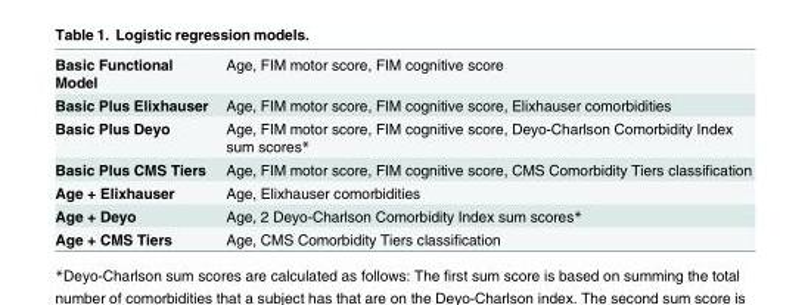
<table><tbody><tr><td>Basic Functional Model</td><td>Age, FIM motor score, FIM cognitive score</td></tr><tr><td>Basic Plus Elixhauser</td><td>Age, FIM motor score, FIM cognitive score, Elixhauser comorbidities</td></tr><tr><td>Basic Plus Deyo</td><td>Age, FIM motor score, FIM cognitive score, Deyo-Charlson Comorbidity Index sum scores*</td></tr><tr><td>Basic Plus CMS Tiers</td><td>Age, FIM motor score, FIM cognitive score, CMS Comorbidity Tiers classification</td></tr><tr><td>Age + Elixhauser</td><td>Age, Elixhauser comorbidities</td></tr><tr><td>Age + Deyo</td><td>Age, 2 Deyo-Charlson Comorbidity Index sum scores*</td></tr><tr><td>Age + CMS Tiers</td><td>Age, CMS Comorbidity Tiers classification</td></tr></tbody></table>